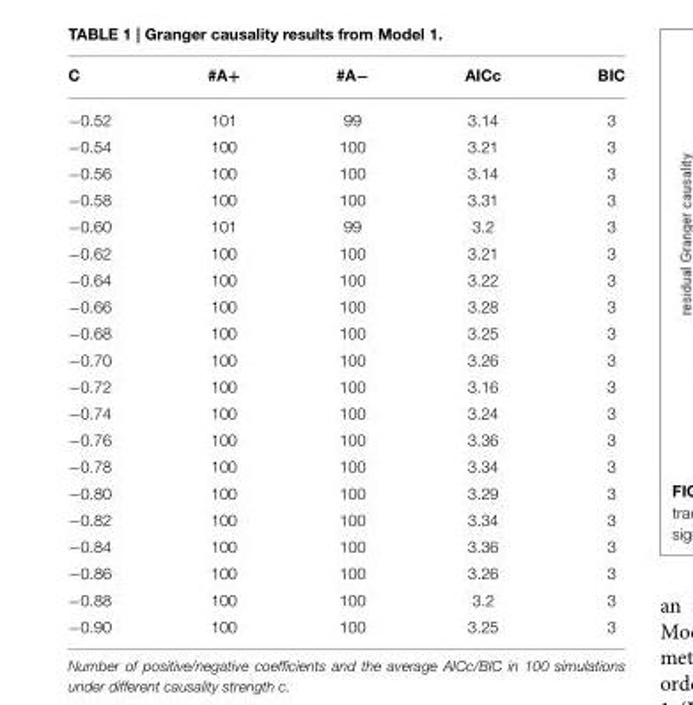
<table><thead><tr><td>C</td><td>#A+</td><td>#A−</td><td>AICc</td><td>BIC</td></tr></thead><tbody><tr><td>−0.52</td><td>101</td><td>99</td><td>3.14</td><td>3</td></tr><tr><td>−0.54</td><td>100</td><td>100</td><td>3.21</td><td>3</td></tr><tr><td>−0.56</td><td>100</td><td>100</td><td>3.14</td><td>3</td></tr><tr><td>−0.58</td><td>100</td><td>100</td><td>3.31</td><td>3</td></tr><tr><td>−0.60</td><td>101</td><td>99</td><td>3.2</td><td>3</td></tr><tr><td>−0.62</td><td>100</td><td>100</td><td>3.21</td><td>3</td></tr><tr><td>−0.64</td><td>100</td><td>100</td><td>3.22</td><td>3</td></tr><tr><td>−0.66</td><td>100</td><td>100</td><td>3.28</td><td>3</td></tr><tr><td>−0.68</td><td>100</td><td>100</td><td>3.25</td><td>3</td></tr><tr><td>−0.70</td><td>100</td><td>100</td><td>3.26</td><td>3</td></tr><tr><td>−0.72</td><td>100</td><td>100</td><td>3.16</td><td>3</td></tr><tr><td>−0.74</td><td>100</td><td>100</td><td>3.24</td><td>3</td></tr><tr><td>−0.76</td><td>100</td><td>100</td><td>3.36</td><td>3</td></tr><tr><td>−0.78</td><td>100</td><td>100</td><td>3.34</td><td>3</td></tr><tr><td>−0.80</td><td>100</td><td>100</td><td>3.29</td><td>3</td></tr><tr><td>−0.82</td><td>100</td><td>100</td><td>3.34</td><td>3</td></tr><tr><td>−0.84</td><td>100</td><td>100</td><td>3.36</td><td>3</td></tr><tr><td>−0.86</td><td>100</td><td>100</td><td>3.26</td><td>3</td></tr><tr><td>−0.88</td><td>100</td><td>100</td><td>3.2</td><td>3</td></tr><tr><td>−0.90</td><td>100</td><td>100</td><td>3.25</td><td>3</td></tr></tbody></table>